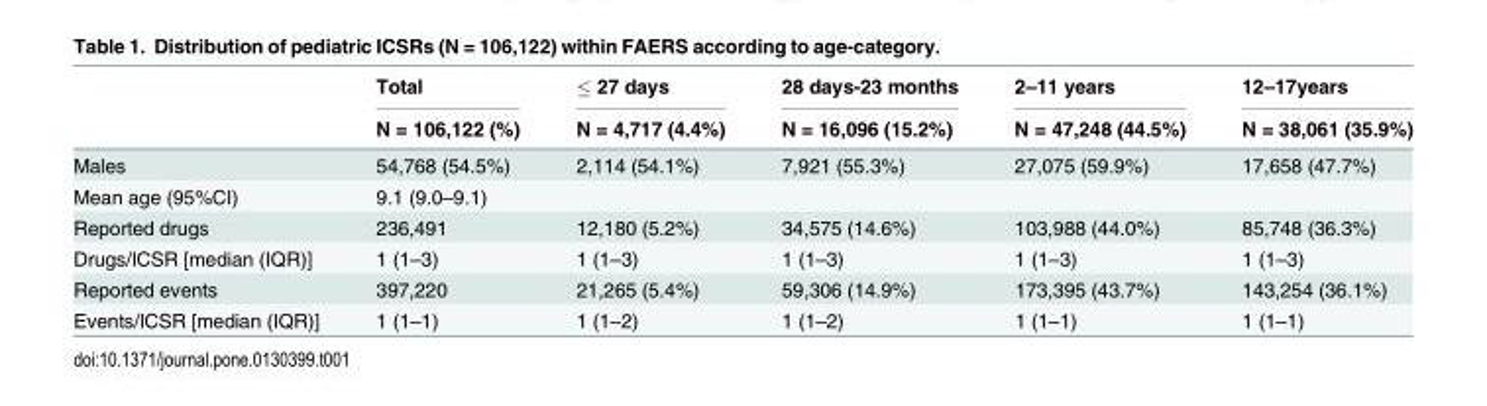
<table><thead><tr><td rowspan="2"></td><td rowspan="2">Total N = 106,122 (%)</td><td rowspan="2">≤ 27 days N = 4,717 (4.4%)</td><td rowspan="2">28 days-23 months N = 16,096 (15.2%)</td><td rowspan="2">2–11 years N = 47,248 (44.5%)</td><td rowspan="2">12–17years N = 38,061 (35.9%)</td></tr><tr></tr></thead><tbody><tr><td>Males</td><td>54,768 (54.5%)</td><td>2,114 (54.1%)</td><td>7,921 (55.3%)</td><td>27,075 (59.9%)</td><td>17,658 (47.7%)</td></tr><tr><td>Mean age (95%CI)</td><td>9.1 (9.0–9.1)</td><td></td><td></td><td></td><td></td></tr><tr><td>Reported drugs</td><td>236,491</td><td>12,180 (5.2%)</td><td>34,575 (14.6%)</td><td>103,988 (44.0%)</td><td>85,748 (36.3%)</td></tr><tr><td>Drugs/ICSR [median (IQR)]</td><td>1 (1–3)</td><td>1 (1–3)</td><td>1 (1–3)</td><td>1 (1–3)</td><td>1 (1–3)</td></tr><tr><td>Reported events</td><td>397,220</td><td>21,265 (5.4%)</td><td>59,306 (14.9%)</td><td>173,395 (43.7%)</td><td>143,254 (36.1%)</td></tr><tr><td>Events/ICSR [median (IQR)]</td><td>1 (1–1)</td><td>1 (1–2)</td><td>1 (1–2)</td><td>1 (1–1)</td><td>1 (1–1)</td></tr></tbody></table>